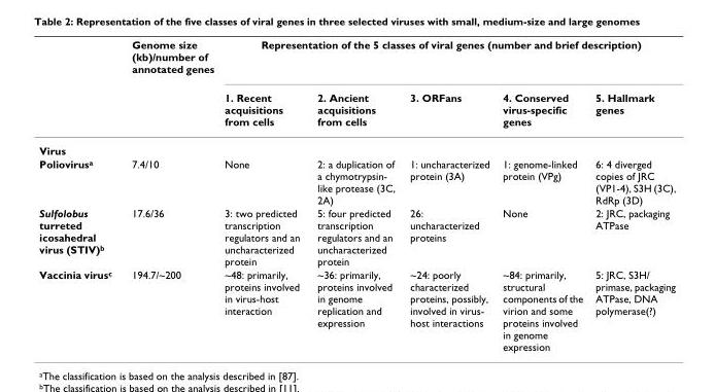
<table><thead><tr><td rowspan="2"></td><td rowspan="2">Genome size (kb)/number of annotated genes</td><td colspan="5">Representation of the 5 classes of viral genes (number and brief description)</td></tr><tr><td>1. Recent acquisitions from cells</td><td>2. Ancient acquisitions from cells</td><td>3. ORFans</td><td>4. Conserved virus-specific genes</td><td>5. Hallmark genes</td></tr></thead><tbody><tr><td colspan="7">Virus</td></tr><tr><td>Poliovirus<sup>a</sup></td><td>7.4/10</td><td>None</td><td>2: a duplication of a chymotrypsin- like protease (3C, 2A)</td><td>1: uncharacterized protein (3A)</td><td>1: genome-linked protein (VPg)</td><td>6: 4 diverged copies of JRC (VP1-4), S3H (3C), RdRp (3D)</td></tr><tr><td>Sulfolobus turreted icosahedral virus (STIV)<sup>b</sup></td><td>17.6/36</td><td>3: two predicted transcription regulators and an uncharacterized protein</td><td>5: four predicted transcription regulators and an uncharacterized protein</td><td>26: uncharacterized proteins</td><td>None</td><td>2: JRC, packaging ATPase</td></tr><tr><td>Vaccinia virus<sup>c</sup></td><td>194.7/~200</td><td>~48: primarily, proteins involved in virus-host interaction</td><td>~36: primarily, proteins involved in genome replication and expression</td><td>~24: poorly characterized proteins, possibly, involved in virus- host interactions</td><td>~84: primarily, structural components of the virion and some proteins involved in genome expression</td><td>5: JRC, S3H/ primase, packaging ATPase, DNA polymerase(?)</td></tr></tbody></table>